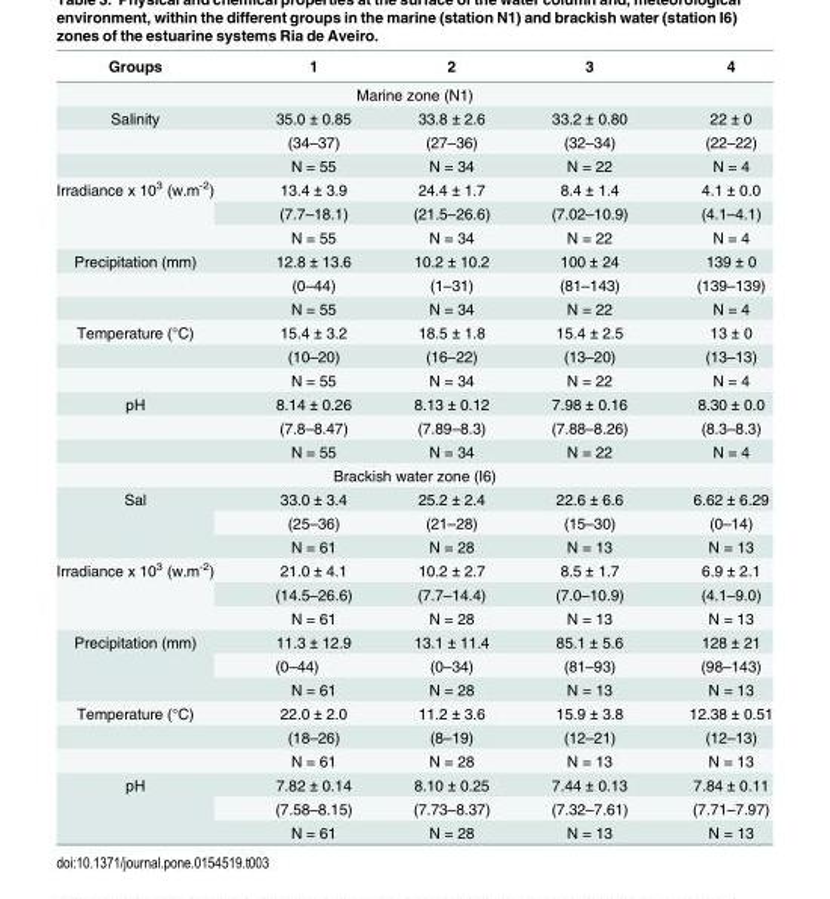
<table><thead><tr><td>Groups</td><td>1</td><td>2</td><td>3</td><td>4</td></tr></thead><tbody><tr><td colspan="5">Marine zone (N1)</td></tr><tr><td rowspan="3">Salinity</td><td>35.0 ± 0.85</td><td>33.8 ± 2.6</td><td>33.2 ± 0.80</td><td>22 ± 0</td></tr><tr><td>(34–37)</td><td>(27–36)</td><td>(32–34)</td><td>(22–22)</td></tr><tr><td>N = 55</td><td>N = 34</td><td>N = 22</td><td>N = 4</td></tr><tr><td rowspan="3">Irradiance x 10<sup>3</sup> (w.m<sup>-2</sup>)</td><td>13.4 ± 3.9</td><td>24.4 ± 1.7</td><td>8.4 ± 1.4</td><td>4.1 ± 0.0</td></tr><tr><td>(7.7–18.1)</td><td>(21.5–26.6)</td><td>(7.02–10.9)</td><td>(4.1–4.1)</td></tr><tr><td>N = 55</td><td>N = 34</td><td>N = 22</td><td>N = 4</td></tr><tr><td rowspan="3">Precipitation (mm)</td><td>12.8 ± 13.6</td><td>10.2 ± 10.2</td><td>100 ± 24</td><td>139 ± 0</td></tr><tr><td>(0–44)</td><td>(1–31)</td><td>(81–143)</td><td>(139–139)</td></tr><tr><td>N = 55</td><td>N = 34</td><td>N = 22</td><td>N = 4</td></tr><tr><td rowspan="3">Temperature (°C)</td><td>15.4 ± 3.2</td><td>18.5 ± 1.8</td><td>15.4 ± 2.5</td><td>13 ± 0</td></tr><tr><td>(10–20)</td><td>(16–22)</td><td>(13–20)</td><td>(13–13)</td></tr><tr><td>N = 55</td><td>N = 34</td><td>N = 22</td><td>N = 4</td></tr><tr><td rowspan="3">pH</td><td>8.14 ± 0.26</td><td>8.13 ± 0.12</td><td>7.98 ± 0.16</td><td>8.30 ± 0.0</td></tr><tr><td>(7.8–8.47)</td><td>(7.89–8.3)</td><td>(7.88–8.26)</td><td>(8.3–8.3)</td></tr><tr><td>N = 55</td><td>N = 34</td><td>N = 22</td><td>N = 4</td></tr><tr><td colspan="5">Brackish water zone (I6)</td></tr><tr><td rowspan="3">Sal</td><td>33.0 ± 3.4</td><td>25.2 ± 2.4</td><td>22.6 ± 6.6</td><td>6.62 ± 6.29</td></tr><tr><td>(25–36)</td><td>(21–28)</td><td>(15–30)</td><td>(0–14)</td></tr><tr><td>N = 61</td><td>N = 28</td><td>N = 13</td><td>N = 13</td></tr><tr><td rowspan="3">Irradiance x 10<sup>3</sup> (w.m<sup>-2</sup>)</td><td>21.0 ± 4.1</td><td>10.2 ± 2.7</td><td>8.5 ± 1.7</td><td>6.9 ± 2.1</td></tr><tr><td>(14.5–26.6)</td><td>(7.7–14.4)</td><td>(7.0–10.9)</td><td>(4.1–9.0)</td></tr><tr><td>N = 61</td><td>N = 28</td><td>N = 13</td><td>N = 13</td></tr><tr><td rowspan="3">Precipitation (mm)</td><td>11.3 ± 12.9</td><td>13.1 ± 11.4</td><td>85.1 ± 5.6</td><td>128 ± 21</td></tr><tr><td>(0–44)</td><td>(0–34)</td><td>(81–93)</td><td>(98–143)</td></tr><tr><td>N = 61</td><td>N = 28</td><td>N = 13</td><td>N = 13</td></tr><tr><td rowspan="3">Temperature (°C)</td><td>22.0 ± 2.0</td><td>11.2 ± 3.6</td><td>15.9 ± 3.8</td><td>12.38 ± 0.51</td></tr><tr><td>(18–26)</td><td>(8–19)</td><td>(12–21)</td><td>(12–13)</td></tr><tr><td>N = 61</td><td>N = 28</td><td>N = 13</td><td>N = 13</td></tr><tr><td rowspan="3">pH</td><td>7.82 ± 0.14</td><td>8.10 ± 0.25</td><td>7.44 ± 0.13</td><td>7.84 ± 0.11</td></tr><tr><td>(7.58–8.15)</td><td>(7.73–8.37)</td><td>(7.32–7.61)</td><td>(7.71–7.97)</td></tr><tr><td>N = 61</td><td>N = 28</td><td>N = 13</td><td>N = 13</td></tr></tbody></table>